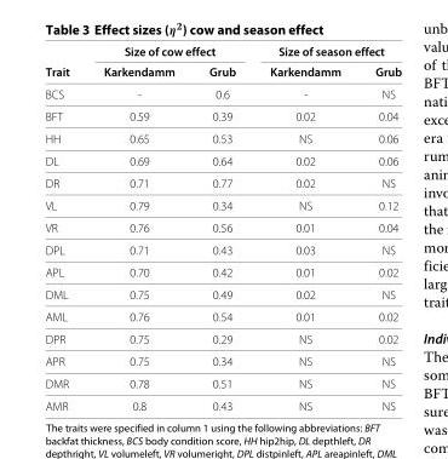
<table><thead><tr><td rowspan="2">Trait</td><td colspan="2">Size of cow effect</td><td colspan="2">Size of season effect</td></tr><tr><td>Karkendamm</td><td>Grub</td><td>Karkendamm</td><td>Grub</td></tr></thead><tbody><tr><td>BCS</td><td>-</td><td>0.6</td><td>-</td><td>NS</td></tr><tr><td>BFT</td><td>0.59</td><td>0.39</td><td>0.02</td><td>0.04</td></tr><tr><td>HH</td><td>0.65</td><td>0.53</td><td>NS</td><td>0.06</td></tr><tr><td>DL</td><td>0.69</td><td>0.64</td><td>0.02</td><td>0.06</td></tr><tr><td>DR</td><td>0.71</td><td>0.77</td><td>0.02</td><td>NS</td></tr><tr><td>VL</td><td>0.79</td><td>0.34</td><td>NS</td><td>0.12</td></tr><tr><td>VR</td><td>0.76</td><td>0.56</td><td>0.01</td><td>0.04</td></tr><tr><td>DPL</td><td>0.71</td><td>0.43</td><td>0.03</td><td>NS</td></tr><tr><td>APL</td><td>0.70</td><td>0.42</td><td>0.01</td><td>0.02</td></tr><tr><td>DML</td><td>0.75</td><td>0.49</td><td>0.02</td><td>NS</td></tr><tr><td>AML</td><td>0.76</td><td>0.54</td><td>0.01</td><td>0.02</td></tr><tr><td>DPR</td><td>0.75</td><td>0.29</td><td>NS</td><td>0.02</td></tr><tr><td>APR</td><td>0.75</td><td>0.34</td><td>NS</td><td>NS</td></tr><tr><td>DMR</td><td>0.78</td><td>0.51</td><td>NS</td><td>NS</td></tr><tr><td>AMR</td><td>0.8</td><td>0.43</td><td>NS</td><td>NS</td></tr></tbody></table>